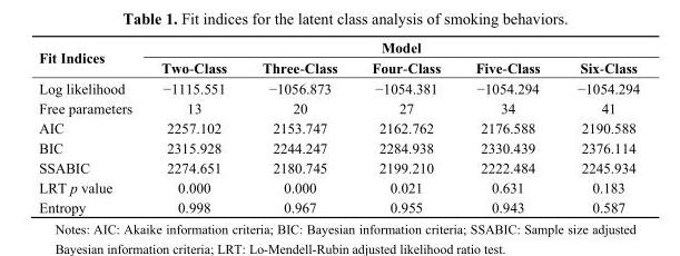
<table><thead><tr><td rowspan="2">Fit Indices</td><td colspan="5">Model</td></tr><tr><td>Two-Class</td><td>Three-Class</td><td>Four-Class</td><td>Five-Class</td><td>Six-Class</td></tr></thead><tbody><tr><td>Log likelihood</td><td>−1115.551</td><td>−1056.873</td><td>−1054.381</td><td>−1054.294</td><td>−1054.294</td></tr><tr><td>Free parameters</td><td>13</td><td>20</td><td>27</td><td>34</td><td>41</td></tr><tr><td>AIC</td><td>2257.102</td><td>2153.747</td><td>2162.762</td><td>2176.588</td><td>2190.588</td></tr><tr><td>BIC</td><td>2315.928</td><td>2244.247</td><td>2284.938</td><td>2330.439</td><td>2376.114</td></tr><tr><td>SSABIC</td><td>2274.651</td><td>2180.745</td><td>2199.210</td><td>2222.484</td><td>2245.934</td></tr><tr><td>LRT p value</td><td>0.000</td><td>0.000</td><td>0.021</td><td>0.631</td><td>0.183</td></tr><tr><td>Entropy</td><td>0.998</td><td>0.967</td><td>0.955</td><td>0.943</td><td>0.587</td></tr></tbody></table>